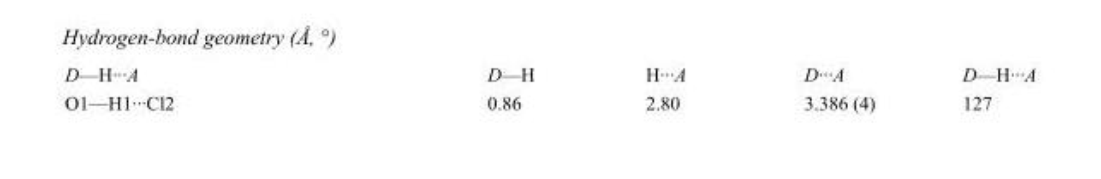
<table><tbody><tr><td>D—H···A</td><td>D—H</td><td>H···A</td><td>D···A</td><td>D—H···A</td></tr><tr><td>O1—H1···Cl2</td><td>0.86</td><td>2.80</td><td>3.386 (4)</td><td>127</td></tr></tbody></table>